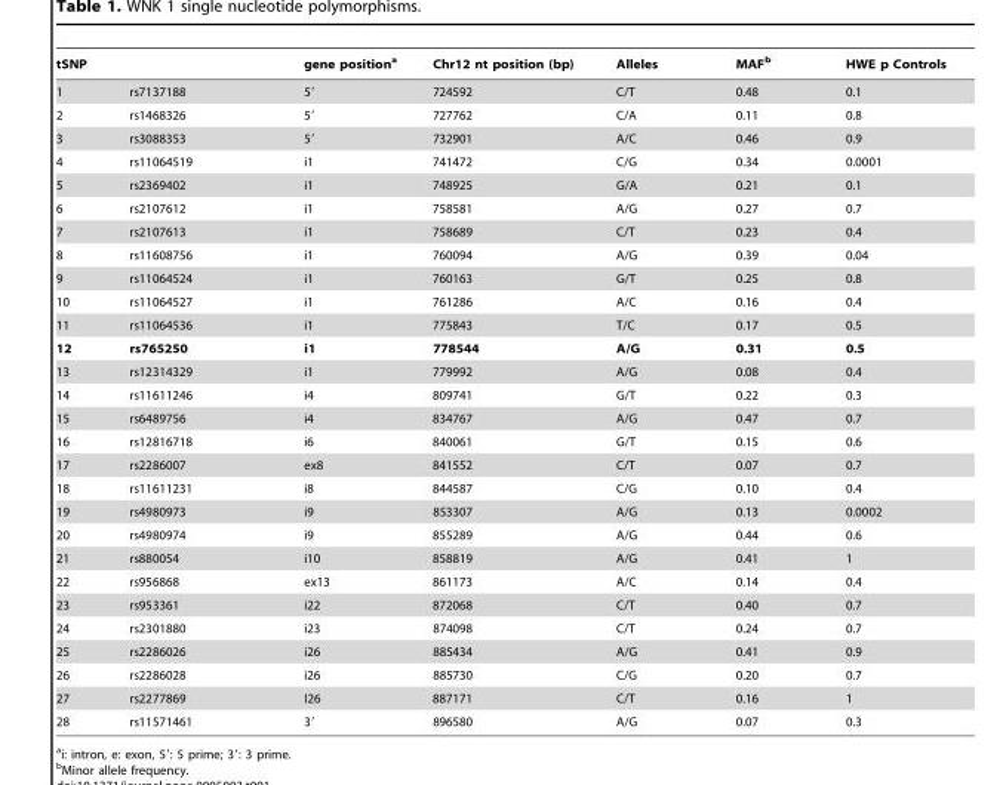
<table><thead><tr><td colspan="2">tSNP</td><td rowspan="2">gene position<sup>a</sup> 5′</td><td rowspan="2">Chr12 nt position (bp) 724592</td><td rowspan="2">Alleles C/T</td><td rowspan="2">MAF<sup>b</sup> 0.48</td><td rowspan="2">HWE p Controls 0.1</td></tr><tr><td>1</td><td>rs7137188</td></tr></thead><tbody><tr><td>2</td><td>rs1468326</td><td>5′</td><td>727762</td><td>C/A</td><td>0.11</td><td>0.8</td></tr><tr><td>3</td><td>rs3088353</td><td>5′</td><td>732901</td><td>A/C</td><td>0.46</td><td>0.9</td></tr><tr><td>4</td><td>rs11064519</td><td>i1</td><td>741472</td><td>C/G</td><td>0.34</td><td>0.0001</td></tr><tr><td>5</td><td>rs2369402</td><td>i1</td><td>748925</td><td>G/A</td><td>0.21</td><td>0.1</td></tr><tr><td>6</td><td>rs2107612</td><td>i1</td><td>758581</td><td>A/G</td><td>0.27</td><td>0.7</td></tr><tr><td>7</td><td>rs2107613</td><td>i1</td><td>758689</td><td>C/T</td><td>0.23</td><td>0.4</td></tr><tr><td>8</td><td>rs11608756</td><td>i1</td><td>760094</td><td>A/G</td><td>0.39</td><td>0.04</td></tr><tr><td>9</td><td>rs11064524</td><td>i1</td><td>760163</td><td>G/T</td><td>0.25</td><td>0.8</td></tr><tr><td>10</td><td>rs11064527</td><td>i1</td><td>761286</td><td>A/C</td><td>0.16</td><td>0.4</td></tr><tr><td>11</td><td>rs11064536</td><td>i1</td><td>775843</td><td>T/C</td><td>0.17</td><td>0.5</td></tr><tr><td>12</td><td>rs765250</td><td>i1</td><td>778544</td><td>A/G</td><td>0.31</td><td>0.5</td></tr><tr><td>13</td><td>rs12314329</td><td>i1</td><td>779992</td><td>A/G</td><td>0.08</td><td>0.4</td></tr><tr><td>14</td><td>rs11611246</td><td>i4</td><td>809741</td><td>G/T</td><td>0.22</td><td>0.3</td></tr><tr><td>15</td><td>rs6489756</td><td>i4</td><td>834767</td><td>A/G</td><td>0.47</td><td>0.7</td></tr><tr><td>16</td><td>rs12816718</td><td>i6</td><td>840061</td><td>G/T</td><td>0.15</td><td>0.6</td></tr><tr><td>17</td><td>rs2286007</td><td>ex8</td><td>841552</td><td>C/T</td><td>0.07</td><td>0.7</td></tr><tr><td>18</td><td>rs11611231</td><td>i8</td><td>844587</td><td>C/G</td><td>0.10</td><td>0.4</td></tr><tr><td>19</td><td>rs4980973</td><td>i9</td><td>853307</td><td>A/G</td><td>0.13</td><td>0.0002</td></tr><tr><td>20</td><td>rs4980974</td><td>i9</td><td>855289</td><td>A/G</td><td>0.44</td><td>0.6</td></tr><tr><td>21</td><td>rs880054</td><td>i10</td><td>858819</td><td>A/G</td><td>0.41</td><td>1</td></tr><tr><td>22</td><td>rs956868</td><td>ex13</td><td>861173</td><td>A/C</td><td>0.14</td><td>0.4</td></tr><tr><td>23</td><td>rs953361</td><td>i22</td><td>872068</td><td>C/T</td><td>0.40</td><td>0.7</td></tr><tr><td>24</td><td>rs2301880</td><td>i23</td><td>874098</td><td>C/T</td><td>0.24</td><td>0.7</td></tr><tr><td>25</td><td>rs2286026</td><td>i26</td><td>885434</td><td>A/G</td><td>0.41</td><td>0.9</td></tr><tr><td>26</td><td>rs2286028</td><td>i26</td><td>885730</td><td>C/G</td><td>0.20</td><td>0.7</td></tr><tr><td>27</td><td>rs2277869</td><td>I26</td><td>887171</td><td>C/T</td><td>0.16</td><td>1</td></tr><tr><td>28</td><td>rs11571461</td><td>3′</td><td>896580</td><td>A/G</td><td>0.07</td><td>0.3</td></tr></tbody></table>